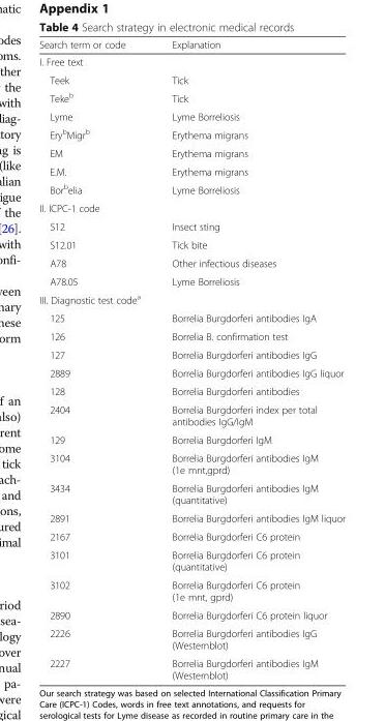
<table><thead><tr><td>Search term or code</td><td>Explanation</td></tr></thead><tbody><tr><td colspan="2">I. Free text</td></tr><tr><td>Teek</td><td>Tick</td></tr><tr><td>Teke<sup>b</sup></td><td>Tick</td></tr><tr><td>Lyme</td><td>Lyme Borreliosis</td></tr><tr><td>Ery<sup>b</sup>Migr<sup>b</sup></td><td>Erythema migrans</td></tr><tr><td>EM</td><td>Erythema migrans</td></tr><tr><td>E.M.</td><td>Erythema migrans</td></tr><tr><td>Bor<sup>b</sup>elia</td><td>Lyme Borreliosis</td></tr><tr><td colspan="2">II. ICPC-1 code</td></tr><tr><td>S12</td><td>Insect sting</td></tr><tr><td>S12.01</td><td>Tick bite</td></tr><tr><td>A78</td><td>Other infectious diseases</td></tr><tr><td>A78.05</td><td>Lyme Borreliosis</td></tr><tr><td colspan="2">III. Diagnostic test code<sup>a</sup></td></tr><tr><td>125</td><td>Borrelia Burgdorferi antibodies IgA</td></tr><tr><td>126</td><td>Borrelia B. confirmation test</td></tr><tr><td>127</td><td>Borrelia Burgdorferi antibodies IgG</td></tr><tr><td>2889</td><td>Borrelia Burgdorferi antibodies IgG liquor</td></tr><tr><td>128</td><td>Borrelia Burgdorferi antibodies</td></tr><tr><td>2404</td><td>Borrelia Burgdorferi index per total antibodies IgG/IgM</td></tr><tr><td>129</td><td>Borrelia Burgdorferi IgM</td></tr><tr><td>3104</td><td>Borrelia Burgdorferi antibodies IgM (1e mnt,gprd)</td></tr><tr><td>3434</td><td>Borrelia Burgdorferi antibodies IgM (quantitative)</td></tr><tr><td>2891</td><td>Borrelia Burgdorferi antibodies IgM liquor</td></tr><tr><td>2167</td><td>Borrelia Burgdorferi C6 protein</td></tr><tr><td>3101</td><td>Borrelia Burgdorferi C6 protein (quantitative)</td></tr><tr><td>3102</td><td>Borrelia Burgdorferi C6 protein (1e mnt, gprd)</td></tr><tr><td>2890</td><td>Borrelia Burgdorferi C6 protein liquor</td></tr><tr><td>2226</td><td>Borrelia Burgdorferi antibodies IgG (Westernblot)</td></tr><tr><td>2227</td><td>Borrelia Burgdorferi antibodies IgM (Westernblot)</td></tr></tbody></table>